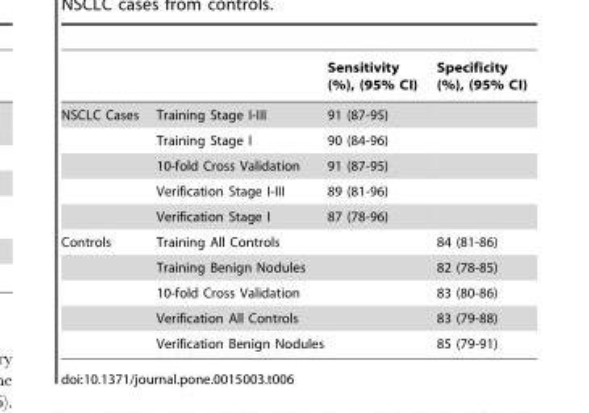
<table><thead><tr><td></td><td></td><td>Sensitivity (%), (95% CI)</td><td>Specificity (%), (95% CI)</td></tr></thead><tbody><tr><td rowspan="5">NSCLC Cases</td><td>Training Stage I-III</td><td>91 (87-95)</td><td></td></tr><tr><td>Training Stage I</td><td>90 (84-96)</td><td></td></tr><tr><td>10-fold Cross Validation</td><td>91 (87-95)</td><td></td></tr><tr><td>Verification Stage I-III</td><td>89 (81-96)</td><td></td></tr><tr><td>Verification Stage I</td><td>87 (78-96)</td><td></td></tr><tr><td rowspan="5">Controls</td><td>Training All Controls</td><td></td><td>84 (81-86)</td></tr><tr><td>Training Benign Nodules</td><td></td><td>82 (78-85)</td></tr><tr><td>10-fold Cross Validation</td><td></td><td>83 (80-86)</td></tr><tr><td>Verification All Controls</td><td></td><td>83 (79-88)</td></tr><tr><td>Verification Benign Nodules</td><td></td><td>85 (79-91)</td></tr></tbody></table>